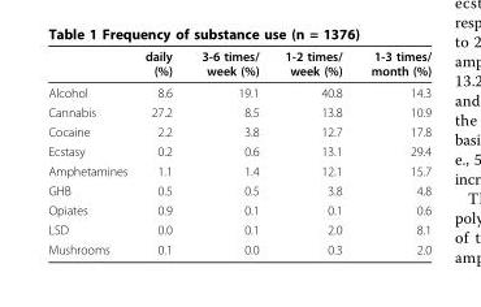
<table><thead><tr><td></td><td>daily (%)</td><td>3-6 times/ week (%)</td><td>1-2 times/ week (%)</td><td>1-3 times/ month (%)</td></tr></thead><tbody><tr><td>Alcohol</td><td>8.6</td><td>19.1</td><td>40.8</td><td>14.3</td></tr><tr><td>Cannabis</td><td>27.2</td><td>8.5</td><td>13.8</td><td>10.9</td></tr><tr><td>Cocaine</td><td>2.2</td><td>3.8</td><td>12.7</td><td>17.8</td></tr><tr><td>Ecstasy</td><td>0.2</td><td>0.6</td><td>13.1</td><td>29.4</td></tr><tr><td>Amphetamines</td><td>1.1</td><td>1.4</td><td>12.1</td><td>15.7</td></tr><tr><td>GHB</td><td>0.5</td><td>0.5</td><td>3.8</td><td>4.8</td></tr><tr><td>Opiates</td><td>0.9</td><td>0.1</td><td>0.1</td><td>0.6</td></tr><tr><td>LSD</td><td>0.0</td><td>0.1</td><td>2.0</td><td>8.1</td></tr><tr><td>Mushrooms</td><td>0.1</td><td>0.0</td><td>0.3</td><td>2.0</td></tr></tbody></table>